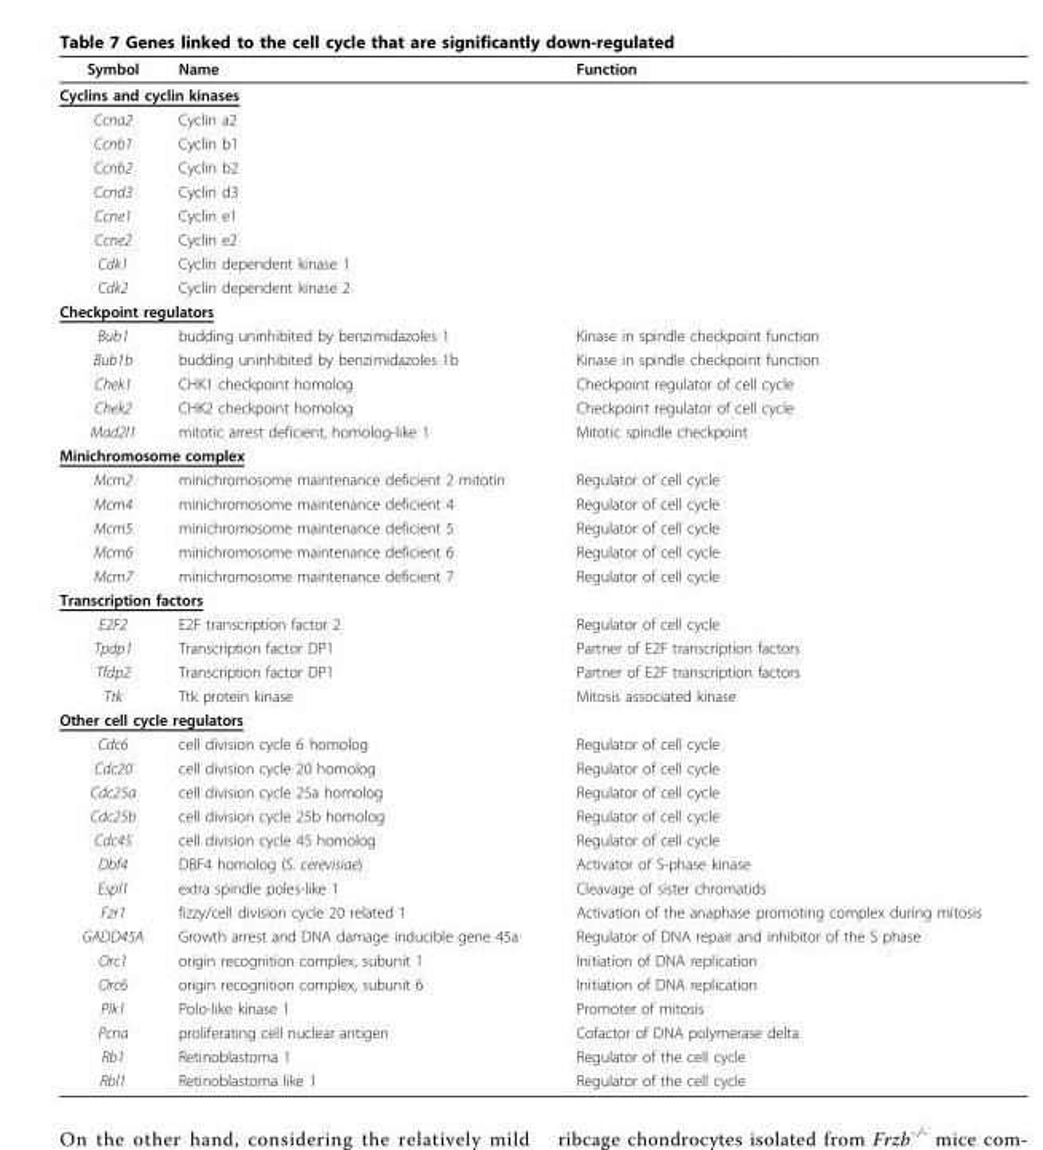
<table><thead><tr><td>Symbol</td><td>Name</td><td>Function</td></tr></thead><tbody><tr><td colspan="3">Cyclins and cyclin kinases</td></tr><tr><td>Ccna2</td><td>Cyclin a2</td><td></td></tr><tr><td>Ccnb1</td><td>Cyclin b1</td><td></td></tr><tr><td>Ccnb2</td><td>Cyclin b2</td><td></td></tr><tr><td>Ccnd3</td><td>Cyclin d3</td><td></td></tr><tr><td>Ccne1</td><td>Cyclin e1</td><td></td></tr><tr><td>Ccne2</td><td>Cyclin e2</td><td></td></tr><tr><td>Cdk1</td><td>Cyclin dependent kinase 1</td><td></td></tr><tr><td>Cdk2</td><td>Cyclin dependent kinase 2</td><td></td></tr><tr><td colspan="3">Checkpoint regulators</td></tr><tr><td>Bub1</td><td>budding uninhibited by benzimidazoles 1</td><td>Kinase in spindle checkpoint function</td></tr><tr><td>Bub1b</td><td>budding uninhibited by benzimidazoles 1b</td><td>Kinase in spindle checkpoint function</td></tr><tr><td>Chek1</td><td>CHK1 checkpoint homolog</td><td>Checkpoint regulator of cell cycle</td></tr><tr><td>Chek2</td><td>CHK2 checkpoint homolog</td><td>Checkpoint regulator of cell cycle</td></tr><tr><td>Mad2l1</td><td>mitotic arrest deficient, homolog-like 1</td><td>Mitotic spindle checkpoint</td></tr><tr><td colspan="3">Minichromosome complex</td></tr><tr><td>Mcm2</td><td>minichromosome maintenance deficient 2 mitotin</td><td>Regulator of cell cycle</td></tr><tr><td>Mcm4</td><td>minichromosome maintenance deficient 4</td><td>Regulator of cell cycle</td></tr><tr><td>Mcm5</td><td>minichromosome maintenance deficient 5</td><td>Regulator of cell cycle</td></tr><tr><td>Mcm6</td><td>minichromosome maintenance deficient 6</td><td>Regulator of cell cycle</td></tr><tr><td>Mcm7</td><td>minichromosome maintenance deficient 7</td><td>Regulator of cell cycle</td></tr><tr><td colspan="3">Transcription factors</td></tr><tr><td>E2F2</td><td>E2F transcription factor 2</td><td>Regulator of cell cycle</td></tr><tr><td>Tpdp1</td><td>Transcription factor DP1</td><td>Partner of E2F transcription factors</td></tr><tr><td>Tfdp2</td><td>Transcription factor DP1</td><td>Partner of E2F transcription factors</td></tr><tr><td>Ttk</td><td>Ttk protein kinase</td><td>Mitosis associated kinase</td></tr><tr><td colspan="3">Other cell cycle regulators</td></tr><tr><td>Cdc6</td><td>cell division cycle 6 homolog</td><td>Regulator of cell cycle</td></tr><tr><td>Cdc20</td><td>cell division cycle 20 homolog</td><td>Regulator of cell cycle</td></tr><tr><td>Cdc25a</td><td>cell division cycle 25a homolog</td><td>Regulator of cell cycle</td></tr><tr><td>Cdc25b</td><td>cell division cycle 25b homolog</td><td>Regulator of cell cycle</td></tr><tr><td>Cdc45</td><td>cell division cycle 45 homolog</td><td>Regulator of cell cycle</td></tr><tr><td>Dbf4</td><td>DBF4 homolog (S. cerevisiae)</td><td>Activator of S-phase kinase</td></tr><tr><td>Espl1</td><td>extra spindle poles-like 1</td><td>Cleavage of sister chromatids</td></tr><tr><td>Fzr1</td><td>fizzy/cell division cycle 20 related 1</td><td>Activation of the anaphase promoting complex during mitosis</td></tr><tr><td>GADD45A</td><td>Growth arrest and DNA damage inducible gene 45a</td><td>Regulator of DNA repair and inhibitor of the S phase</td></tr><tr><td>Orc1</td><td>origin recognition complex, subunit 1</td><td>Initiation of DNA replication</td></tr><tr><td>Orc6</td><td>origin recognition complex, subunit 6</td><td>Initiation of DNA replication</td></tr><tr><td>Plk1</td><td>Polo-like kinase 1</td><td>Promoter of mitosis</td></tr><tr><td>Pcna</td><td>proliferating cell nuclear antigen</td><td>Cofactor of DNA polymerase delta</td></tr><tr><td>Rb1</td><td>Retinoblastoma 1</td><td>Regulator of the cell cycle</td></tr><tr><td>Rbl1</td><td>Retinoblastoma like 1</td><td>Regulator of the cell cycle</td></tr></tbody></table>